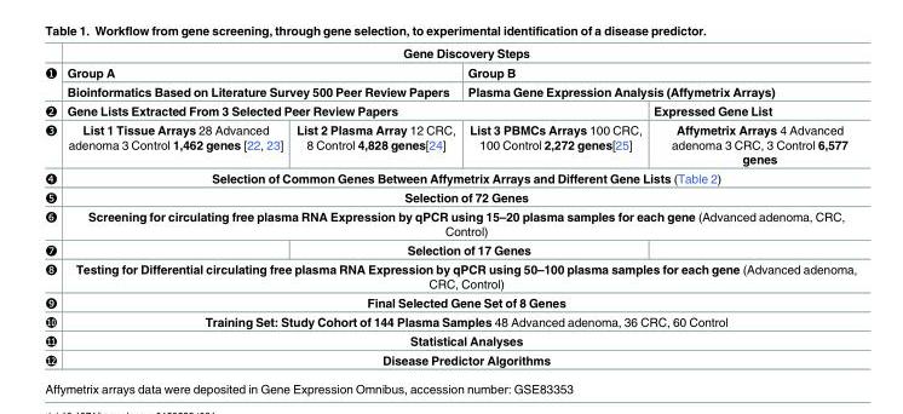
<table><thead><tr><td></td><td colspan="4">Gene Discovery Steps</td></tr></thead><tbody><tr><td rowspan="2">❶</td><td colspan="2">Group A</td><td colspan="2">Group B</td></tr><tr><td colspan="2">Bioinformatics Based on Literature Survey 500 Peer Review Papers</td><td colspan="2">Plasma Gene Expression Analysis (Affymetrix Arrays)</td></tr><tr><td>❷</td><td colspan="3">Gene Lists Extracted From 3 Selected Peer Review Papers</td><td>Expressed Gene List</td></tr><tr><td>❸</td><td>List 1 Tissue Arrays 28 Advanced adenoma 3 Control 1,462 genes [22, 23]</td><td>List 2 Plasma Array 12 CRC, 8 Control 4,828 genes[24]</td><td>List 3 PBMCs Arrays 100 CRC, 100 Control 2,272 genes[25]</td><td>Affymetrix Arrays 4 Advanced adenoma 3 CRC, 3 Control 6,577 genes</td></tr><tr><td>❹</td><td colspan="4">Selection of Common Genes Between Affymetrix Arrays and Different Gene Lists (Table 2)</td></tr><tr><td>❺</td><td colspan="4">Selection of 72 Genes</td></tr><tr><td>❻</td><td colspan="4">Screening for circulating free plasma RNA Expression by qPCR using 15–20 plasma samples for each gene (Advanced adenoma, CRC, Control)</td></tr><tr><td>❼</td><td></td><td colspan="2">Selection of 17 Genes</td><td></td></tr><tr><td>❽</td><td colspan="4">Testing for Differential circulating free plasma RNA Expression by qPCR using 50–100 plasma samples for each gene (Advanced adenoma, CRC, Control)</td></tr><tr><td>❾</td><td colspan="4">Final Selected Gene Set of 8 Genes</td></tr><tr><td>❿</td><td colspan="4">Training Set: Study Cohort of 144 Plasma Samples 48 Advanced adenoma, 36 CRC, 60 Control</td></tr><tr><td>⓫</td><td colspan="4">Statistical Analyses</td></tr><tr><td>⓬</td><td colspan="4">Disease Predictor Algorithms</td></tr></tbody></table>